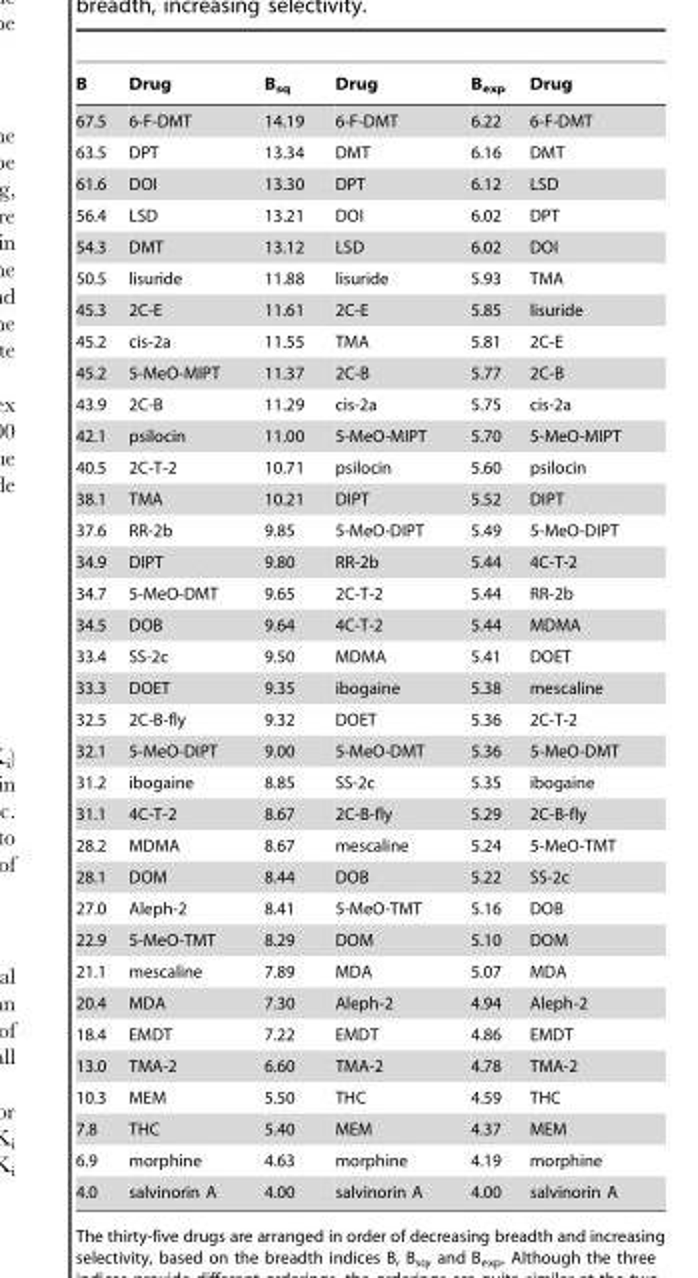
<table><thead><tr><td>B</td><td>Drug</td><td>B<sub>sq</sub></td><td>Drug</td><td>B<sub>exp</sub></td><td>Drug</td></tr></thead><tbody><tr><td>67.5</td><td>6-F-DMT</td><td>14.19</td><td>6-F-DMT</td><td>6.22</td><td>6-F-DMT</td></tr><tr><td>63.5</td><td>DPT</td><td>13.34</td><td>DMT</td><td>6.16</td><td>DMT</td></tr><tr><td>61.6</td><td>DOI</td><td>13.30</td><td>DPT</td><td>6.12</td><td>LSD</td></tr><tr><td>56.4</td><td>LSD</td><td>13.21</td><td>DOI</td><td>6.02</td><td>DPT</td></tr><tr><td>54.3</td><td>DMT</td><td>13.12</td><td>LSD</td><td>6.02</td><td>DOI</td></tr><tr><td>50.5</td><td>lisuride</td><td>11.88</td><td>lisuride</td><td>5.93</td><td>TMA</td></tr><tr><td>45.3</td><td>2C-E</td><td>11.61</td><td>2C-E</td><td>5.85</td><td>lisuride</td></tr><tr><td>45.2</td><td>cis-2a</td><td>11.55</td><td>TMA</td><td>5.81</td><td>2C-E</td></tr><tr><td>45.2</td><td>5-MeO-MIPT</td><td>11.37</td><td>2C-B</td><td>5.77</td><td>2C-B</td></tr><tr><td>43.9</td><td>2C-B</td><td>11.29</td><td>cis-2a</td><td>5.75</td><td>cis-2a</td></tr><tr><td>42.1</td><td>psilocin</td><td>11.00</td><td>5-MeO-MIPT</td><td>5.70</td><td>5-MeO-MIPT</td></tr><tr><td>40.5</td><td>2C-T-2</td><td>10.71</td><td>psilocin</td><td>5.60</td><td>psilocin</td></tr><tr><td>38.1</td><td>TMA</td><td>10.21</td><td>DIPT</td><td>5.52</td><td>DIPT</td></tr><tr><td>37.6</td><td>RR-2b</td><td>9.85</td><td>5-MeO-DIPT</td><td>5.49</td><td>5-MeO-DIPT</td></tr><tr><td>34.9</td><td>DIPT</td><td>9.80</td><td>RR-2b</td><td>5.44</td><td>4C-T-2</td></tr><tr><td>34.7</td><td>5-MeO-DMT</td><td>9.65</td><td>2C-T-2</td><td>5.44</td><td>RR-2b</td></tr><tr><td>34.5</td><td>DOB</td><td>9.64</td><td>4C-T-2</td><td>5.44</td><td>MDMA</td></tr><tr><td>33.4</td><td>SS-2c</td><td>9.50</td><td>MDMA</td><td>5.41</td><td>DOET</td></tr><tr><td>33.3</td><td>DOET</td><td>9.35</td><td>ibogaine</td><td>5.38</td><td>mescaline</td></tr><tr><td>32.5</td><td>2C-B-fly</td><td>9.32</td><td>DOET</td><td>5.36</td><td>2C-T-2</td></tr><tr><td>32.1</td><td>5-MeO-DIPT</td><td>9.00</td><td>5-MeO-DMT</td><td>5.36</td><td>5-MeO-DMT</td></tr><tr><td>31.2</td><td>ibogaine</td><td>8.85</td><td>SS-2c</td><td>5.35</td><td>ibogaine</td></tr><tr><td>31.1</td><td>4C-T-2</td><td>8.67</td><td>2C-B-fly</td><td>5.29</td><td>2C-B-fly</td></tr><tr><td>28.2</td><td>MDMA</td><td>8.67</td><td>mescaline</td><td>5.24</td><td>5-MeO-TMT</td></tr><tr><td>28.1</td><td>DOM</td><td>8.44</td><td>DOB</td><td>5.22</td><td>SS-2c</td></tr><tr><td>27.0</td><td>Aleph-2</td><td>8.41</td><td>5-MeO-TMT</td><td>5.16</td><td>DOB</td></tr><tr><td>22.9</td><td>5-MeO-TMT</td><td>8.29</td><td>DOM</td><td>5.10</td><td>DOM</td></tr><tr><td>21.1</td><td>mescaline</td><td>7.89</td><td>MDA</td><td>5.07</td><td>MDA</td></tr><tr><td>20.4</td><td>MDA</td><td>7.30</td><td>Aleph-2</td><td>4.94</td><td>Aleph-2</td></tr><tr><td>18.4</td><td>EMDT</td><td>7.22</td><td>EMDT</td><td>4.86</td><td>EMDT</td></tr><tr><td>13.0</td><td>TMA-2</td><td>6.60</td><td>TMA-2</td><td>4.78</td><td>TMA-2</td></tr><tr><td>10.3</td><td>MEM</td><td>5.50</td><td>THC</td><td>4.59</td><td>THC</td></tr><tr><td>7.8</td><td>THC</td><td>5.40</td><td>MEM</td><td>4.37</td><td>MEM</td></tr><tr><td>6.9</td><td>morphine</td><td>4.63</td><td>morphine</td><td>4.19</td><td>morphine</td></tr><tr><td>4.0</td><td>salvinorin A</td><td>4.00</td><td>salvinorin A</td><td>4.00</td><td>salvinorin A</td></tr></tbody></table>